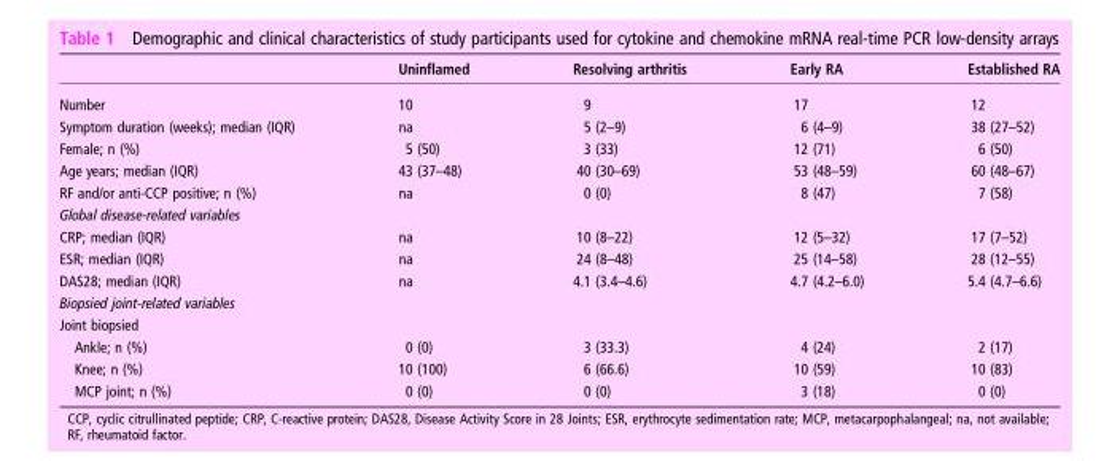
<table><thead><tr><td></td><td>Uninflamed</td><td>Resolving arthritis</td><td>Early RA</td><td>Established RA</td></tr></thead><tbody><tr><td>Number</td><td>10</td><td>9</td><td>17</td><td>12</td></tr><tr><td>Symptom duration (weeks); median (IQR)</td><td>na</td><td>5 (2–9)</td><td>6 (4–9)</td><td>38 (27–52)</td></tr><tr><td>Female; n (%)</td><td>5 (50)</td><td>3 (33)</td><td>12 (71)</td><td>6 (50)</td></tr><tr><td>Age years; median (IQR)</td><td>43 (37–48)</td><td>40 (30–69)</td><td>53 (48–59)</td><td>60 (48–67)</td></tr><tr><td>RF and/or anti-CCP positive; n (%)</td><td>na</td><td>0 (0)</td><td>8 (47)</td><td>7 (58)</td></tr><tr><td colspan="5">Global disease-related variables</td></tr><tr><td>CRP; median (IQR)</td><td>na</td><td>10 (8–22)</td><td>12 (5–32)</td><td>17 (7–52)</td></tr><tr><td>ESR; median (IQR)</td><td>na</td><td>24 (8–48)</td><td>25 (14–58)</td><td>28 (12–55)</td></tr><tr><td>DAS28; median (IQR)</td><td>na</td><td>4.1 (3.4–4.6)</td><td>4.7 (4.2–6.0)</td><td>5.4 (4.7–6.6)</td></tr><tr><td colspan="5">Biopsied joint-related variables</td></tr><tr><td colspan="5">Joint biopsied</td></tr><tr><td>Ankle; n (%)</td><td>0 (0)</td><td>3 (33.3)</td><td>4 (24)</td><td>2 (17)</td></tr><tr><td>Knee; n (%)</td><td>10 (100)</td><td>6 (66.6)</td><td>10 (59)</td><td>10 (83)</td></tr><tr><td>MCP joint; n (%)</td><td>0 (0)</td><td>0 (0)</td><td>3 (18)</td><td>0 (0)</td></tr></tbody></table>